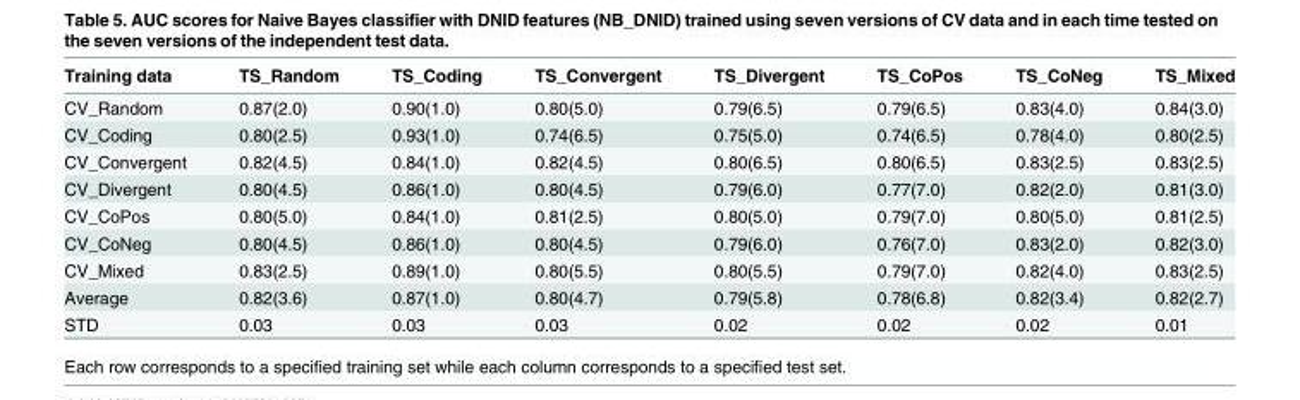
<table><thead><tr><td>Training data</td><td>TS_Random</td><td>TS_Coding</td><td>TS_Convergent</td><td>TS_Divergent</td><td>TS_CoPos</td><td>TS_CoNeg</td><td>TS_Mixed</td></tr></thead><tbody><tr><td>CV_Random</td><td>0.87(2.0)</td><td>0.90(1.0)</td><td>0.80(5.0)</td><td>0.79(6.5)</td><td>0.79(6.5)</td><td>0.83(4.0)</td><td>0.84(3.0)</td></tr><tr><td>CV_Coding</td><td>0.80(2.5)</td><td>0.93(1.0)</td><td>0.74(6.5)</td><td>0.75(5.0)</td><td>0.74(6.5)</td><td>0.78(4.0)</td><td>0.80(2.5)</td></tr><tr><td>CV_Convergent</td><td>0.82(4.5)</td><td>0.84(1.0)</td><td>0.82(4.5)</td><td>0.80(6.5)</td><td>0.80(6.5)</td><td>0.83(2.5)</td><td>0.83(2.5)</td></tr><tr><td>CV_Divergent</td><td>0.80(4.5)</td><td>0.86(1.0)</td><td>0.80(4.5)</td><td>0.79(6.0)</td><td>0.77(7.0)</td><td>0.82(2.0)</td><td>0.81(3.0)</td></tr><tr><td>CV_CoPos</td><td>0.80(5.0)</td><td>0.84(1.0)</td><td>0.81(2.5)</td><td>0.80(5.0)</td><td>0.79(7.0)</td><td>0.80(5.0)</td><td>0.81(2.5)</td></tr><tr><td>CV_CoNeg</td><td>0.80(4.5)</td><td>0.86(1.0)</td><td>0.80(4.5)</td><td>0.79(6.0)</td><td>0.76(7.0)</td><td>0.83(2.0)</td><td>0.82(3.0)</td></tr><tr><td>CV_Mixed</td><td>0.83(2.5)</td><td>0.89(1.0)</td><td>0.80(5.5)</td><td>0.80(5.5)</td><td>0.79(7.0)</td><td>0.82(4.0)</td><td>0.83(2.5)</td></tr><tr><td>Average</td><td>0.82(3.6)</td><td>0.87(1.0)</td><td>0.80(4.7)</td><td>0.79(5.8)</td><td>0.78(6.8)</td><td>0.82(3.4)</td><td>0.82(2.7)</td></tr><tr><td>STD</td><td>0.03</td><td>0.03</td><td>0.03</td><td>0.02</td><td>0.02</td><td>0.02</td><td>0.01</td></tr></tbody></table>